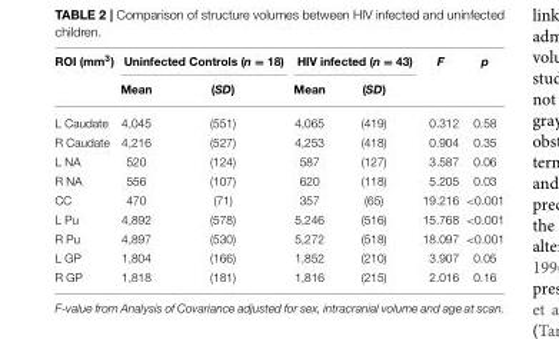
<table><thead><tr><td rowspan="2">ROI (mm<sup>3</sup>)</td><td colspan="2">Uninfected Controls (n = 18)</td><td colspan="2">HIV infected (n = 43)</td><td rowspan="2">F</td><td rowspan="2">p</td></tr><tr><td>Mean</td><td>(SD)</td><td>Mean</td><td>(SD)</td></tr></thead><tbody><tr><td>L Caudate</td><td>4,045</td><td>(551)</td><td>4,065</td><td>(419)</td><td>0.312</td><td>0.58</td></tr><tr><td>R Caudate</td><td>4,216</td><td>(527)</td><td>4,253</td><td>(418)</td><td>0.904</td><td>0.35</td></tr><tr><td>L NA</td><td>520</td><td>(124)</td><td>587</td><td>(127)</td><td>3.587</td><td>0.06</td></tr><tr><td>R NA</td><td>556</td><td>(107)</td><td>620</td><td>(118)</td><td>5.205</td><td>0.03</td></tr><tr><td>CC</td><td>470</td><td>(71)</td><td>357</td><td>(65)</td><td>19.216</td><td>&lt;0.001</td></tr><tr><td>L Pu</td><td>4,892</td><td>(578)</td><td>5,246</td><td>(516)</td><td>15.768</td><td>&lt;0.001</td></tr><tr><td>R Pu</td><td>4,897</td><td>(530)</td><td>5,272</td><td>(518)</td><td>18.097</td><td>&lt;0.001</td></tr><tr><td>L GP</td><td>1,804</td><td>(166)</td><td>1,852</td><td>(210)</td><td>3.907</td><td>0.05</td></tr><tr><td>R GP</td><td>1,818</td><td>(181)</td><td>1,816</td><td>(215)</td><td>2.016</td><td>0.16</td></tr></tbody></table>